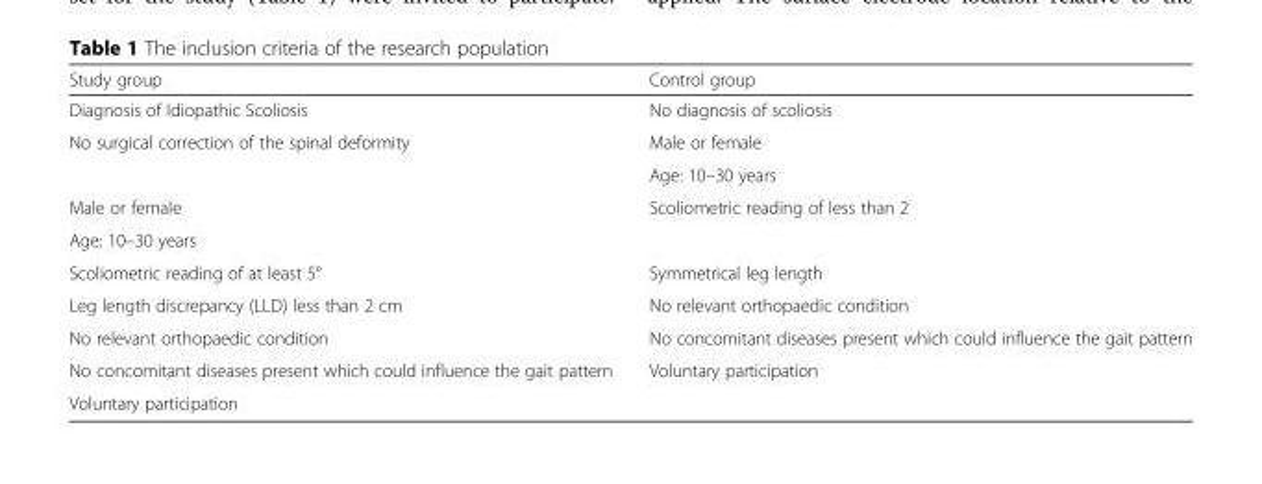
<table><thead><tr><td>Study group</td><td>Control group</td></tr></thead><tbody><tr><td>Diagnosis of Idiopathic Scoliosis</td><td>No diagnosis of scoliosis</td></tr><tr><td rowspan="2">No surgical correction of the spinal deformity</td><td>Male or female</td></tr><tr><td>Age: 10–30 years</td></tr><tr><td>Male or female</td><td>Scoliometric reading of less than 2</td></tr><tr><td colspan="2">Age: 10–30 years</td></tr><tr><td>Scoliometric reading of at least 5°</td><td>Symmetrical leg length</td></tr><tr><td>Leg length discrepancy (LLD) less than 2 cm</td><td>No relevant orthopaedic condition</td></tr><tr><td>No relevant orthopaedic condition</td><td>No concomitant diseases present which could influence the gait pattern</td></tr><tr><td>No concomitant diseases present which could influence the gait pattern</td><td>Voluntary participation</td></tr><tr><td>Voluntary participation</td><td></td></tr></tbody></table>